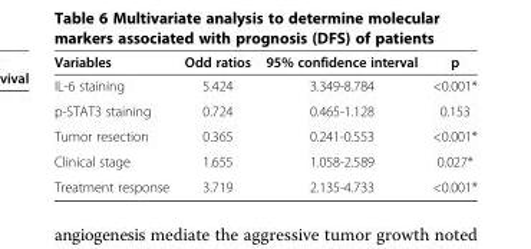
<table><thead><tr><td>Variables</td><td>Odd ratios</td><td>95% confidence interval</td><td>p</td></tr></thead><tbody><tr><td>IL-6 staining</td><td>5.424</td><td>3.349-8.784</td><td>&lt;0.001*</td></tr><tr><td>p-STAT3 staining</td><td>0.724</td><td>0.465-1.128</td><td>0.153</td></tr><tr><td>Tumor resection</td><td>0.365</td><td>0.241-0.553</td><td>&lt;0.001*</td></tr><tr><td>Clinical stage</td><td>1.655</td><td>1.058-2.589</td><td>0.027*</td></tr><tr><td>Treatment response</td><td>3.719</td><td>2.135-4.733</td><td>&lt;0.001*</td></tr></tbody></table>